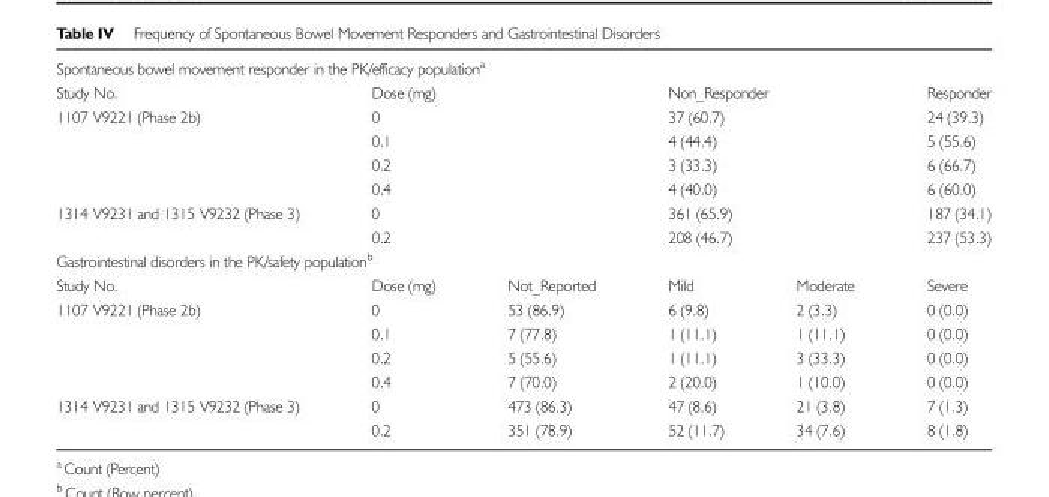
<table><tbody><tr><td colspan="6">Spontaneous bowel movement responder in the PK/efficacy population<sup>a</sup></td></tr><tr><td>Study No.</td><td colspan="2">Dose (mg)</td><td colspan="2">Non_Responder</td><td>Responder</td></tr><tr><td rowspan="4">1107 V9221 (Phase 2b)</td><td colspan="2">0</td><td colspan="2">37 (60.7)</td><td>24 (39.3)</td></tr><tr><td colspan="2">0.1</td><td colspan="2">4 (44.4)</td><td>5 (55.6)</td></tr><tr><td colspan="2">0.2</td><td colspan="2">3 (33.3)</td><td>6 (66.7)</td></tr><tr><td colspan="2">0.4</td><td colspan="2">4 (40.0)</td><td>6 (60.0)</td></tr><tr><td rowspan="2">1314 V9231 and 1315 V9232 (Phase 3)</td><td colspan="2">0</td><td colspan="2">361 (65.9)</td><td>187 (34.1)</td></tr><tr><td colspan="2">0.2</td><td colspan="2">208 (46.7)</td><td>237 (53.3)</td></tr><tr><td colspan="6">Gastrointestinal disorders in the PK/safety population<sup>b</sup></td></tr><tr><td>Study No.</td><td>Dose (mg)</td><td>Not_Reported</td><td>Mild</td><td>Moderate</td><td>Severe</td></tr><tr><td rowspan="4">1107 V9221 (Phase 2b)</td><td>0</td><td>53 (86.9)</td><td>6 (9.8)</td><td>2 (3.3)</td><td>0 (0.0)</td></tr><tr><td>0.1</td><td>7 (77.8)</td><td>1 (11.1)</td><td>1 (11.1)</td><td>0 (0.0)</td></tr><tr><td>0.2</td><td>5 (55.6)</td><td>1 (11.1)</td><td>3 (33.3)</td><td>0 (0.0)</td></tr><tr><td>0.4</td><td>7 (70.0)</td><td>2 (20.0)</td><td>1 (10.0)</td><td>0 (0.0)</td></tr><tr><td rowspan="2">1314 V9231 and 1315 V9232 (Phase 3)</td><td>0</td><td>473 (86.3)</td><td>47 (8.6)</td><td>21 (3.8)</td><td>7 (1.3)</td></tr><tr><td>0.2</td><td>351 (78.9)</td><td>52 (11.7)</td><td>34 (7.6)</td><td>8 (1.8)</td></tr></tbody></table>